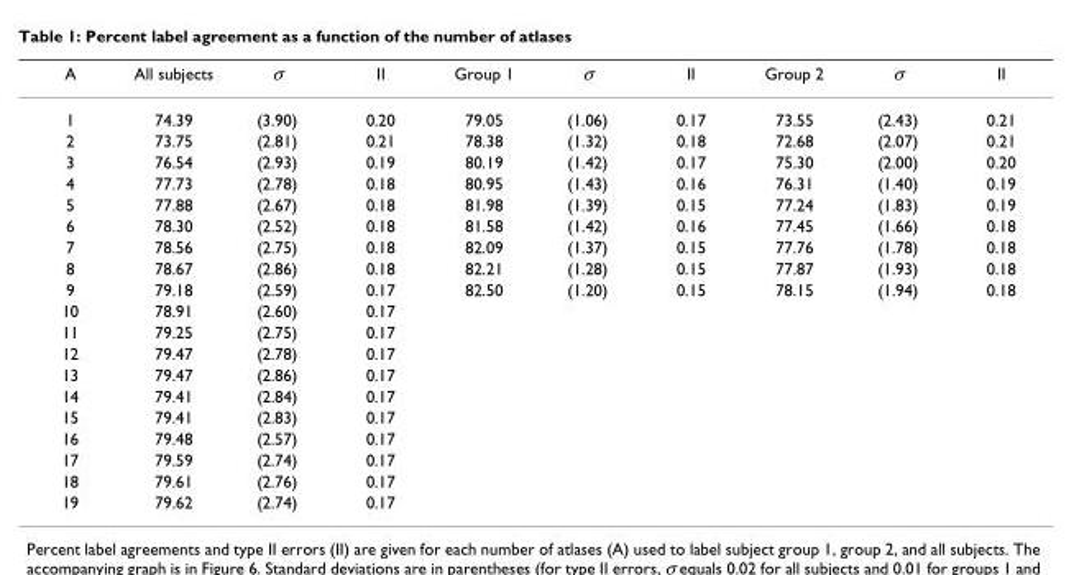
<table><thead><tr><td>A</td><td>All subjects</td><td>σ</td><td>II</td><td>Group 1</td><td>σ</td><td>II</td><td>Group 2</td><td>σ</td><td>II</td></tr></thead><tbody><tr><td>1</td><td>74.39</td><td>(3.90)</td><td>0.20</td><td>79.05</td><td>(1.06)</td><td>0.17</td><td>73.55</td><td>(2.43)</td><td>0.21</td></tr><tr><td>2</td><td>73.75</td><td>(2.81)</td><td>0.21</td><td>78.38</td><td>(1.32)</td><td>0.18</td><td>72.68</td><td>(2.07)</td><td>0.21</td></tr><tr><td>3</td><td>76.54</td><td>(2.93)</td><td>0.19</td><td>80.19</td><td>(1.42)</td><td>0.17</td><td>75.30</td><td>(2.00)</td><td>0.20</td></tr><tr><td>4</td><td>77.73</td><td>(2.78)</td><td>0.18</td><td>80.95</td><td>(1.43)</td><td>0.16</td><td>76.31</td><td>(1.40)</td><td>0.19</td></tr><tr><td>5</td><td>77.88</td><td>(2.67)</td><td>0.18</td><td>81.98</td><td>(1.39)</td><td>0.15</td><td>77.24</td><td>(1.83)</td><td>0.19</td></tr><tr><td>6</td><td>78.30</td><td>(2.52)</td><td>0.18</td><td>81.58</td><td>(1.42)</td><td>0.16</td><td>77.45</td><td>(1.66)</td><td>0.18</td></tr><tr><td>7</td><td>78.56</td><td>(2.75)</td><td>0.18</td><td>82.09</td><td>(1.37)</td><td>0.15</td><td>77.76</td><td>(1.78)</td><td>0.18</td></tr><tr><td>8</td><td>78.67</td><td>(2.86)</td><td>0.18</td><td>82.21</td><td>(1.28)</td><td>0.15</td><td>77.87</td><td>(1.93)</td><td>0.18</td></tr><tr><td>9</td><td>79.18</td><td>(2.59)</td><td>0.17</td><td>82.50</td><td>(1.20)</td><td>0.15</td><td>78.15</td><td>(1.94)</td><td>0.18</td></tr><tr><td>10</td><td>78.91</td><td>(2.60)</td><td>0.17</td><td></td><td></td><td></td><td></td><td></td><td></td></tr><tr><td>11</td><td>79.25</td><td>(2.75)</td><td>0.17</td><td></td><td></td><td></td><td></td><td></td><td></td></tr><tr><td>12</td><td>79.47</td><td>(2.78)</td><td>0.17</td><td></td><td></td><td></td><td></td><td></td><td></td></tr><tr><td>13</td><td>79.47</td><td>(2.86)</td><td>0.17</td><td></td><td></td><td></td><td></td><td></td><td></td></tr><tr><td>14</td><td>79.41</td><td>(2.84)</td><td>0.17</td><td></td><td></td><td></td><td></td><td></td><td></td></tr><tr><td>15</td><td>79.41</td><td>(2.83)</td><td>0.17</td><td></td><td></td><td></td><td></td><td></td><td></td></tr><tr><td>16</td><td>79.48</td><td>(2.57)</td><td>0.17</td><td></td><td></td><td></td><td></td><td></td><td></td></tr><tr><td>17</td><td>79.59</td><td>(2.74)</td><td>0.17</td><td></td><td></td><td></td><td></td><td></td><td></td></tr><tr><td>18</td><td>79.61</td><td>(2.76)</td><td>0.17</td><td></td><td></td><td></td><td></td><td></td><td></td></tr><tr><td>19</td><td>79.62</td><td>(2.74)</td><td>0.17</td><td></td><td></td><td></td><td></td><td></td><td></td></tr></tbody></table>